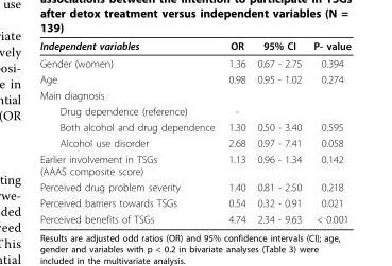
<table><thead><tr><td>Independent variables</td><td>OR</td><td>95% CI</td><td>P- value</td></tr></thead><tbody><tr><td>Gender (women)</td><td>1.36</td><td>0.67 - 2.75</td><td>0.394</td></tr><tr><td>Age</td><td>0.98</td><td>0.95 - 1.02</td><td>0.274</td></tr><tr><td colspan="4">Main diagnosis</td></tr><tr><td>Drug dependence (reference)</td><td>-</td><td></td><td></td></tr><tr><td>Both alcohol and drug dependence</td><td>1.30</td><td>0.50 - 3.40</td><td>0.595</td></tr><tr><td>Alcohol use disorder</td><td>2.68</td><td>0.97 - 7.41</td><td>0.058</td></tr><tr><td>Earlier involvement in TSGs (AAAS composite score)</td><td>1.13</td><td>0.96 - 1.34</td><td>0.142</td></tr><tr><td>Perceived drug problem severity</td><td>1.40</td><td>0.81 - 2.50</td><td>0.218</td></tr><tr><td>Perceived barriers towards TSGs</td><td>0.54</td><td>0.32 - 0.91</td><td>0.021</td></tr><tr><td>Perceived benefits of TSGs</td><td>4.74</td><td>2.34 - 9.63</td><td>&lt; 0.001</td></tr></tbody></table>